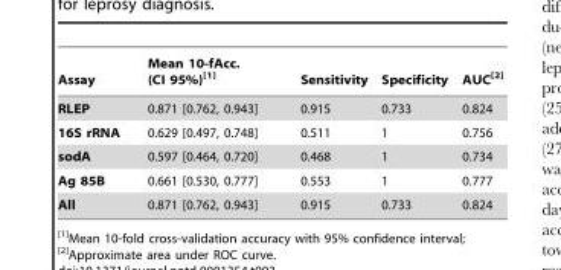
<table><thead><tr><td>Assay</td><td>Mean 10-fAcc. (CI 95%)[1]</td><td>Sensitivity</td><td>Specificity</td><td>AUC[2]</td></tr></thead><tbody><tr><td>RLEP</td><td>0.871 [0.762, 0.943]</td><td>0.915</td><td>0.733</td><td>0.824</td></tr><tr><td>16S rRNA</td><td>0.629 [0.497, 0.748]</td><td>0.511</td><td>1</td><td>0.756</td></tr><tr><td>sodA</td><td>0.597 [0.464, 0.720]</td><td>0.468</td><td>1</td><td>0.734</td></tr><tr><td>Ag 85B</td><td>0.661 [0.530, 0.777]</td><td>0.553</td><td>1</td><td>0.777</td></tr><tr><td>All</td><td>0.871 [0.762, 0.943]</td><td>0.915</td><td>0.733</td><td>0.824</td></tr></tbody></table>